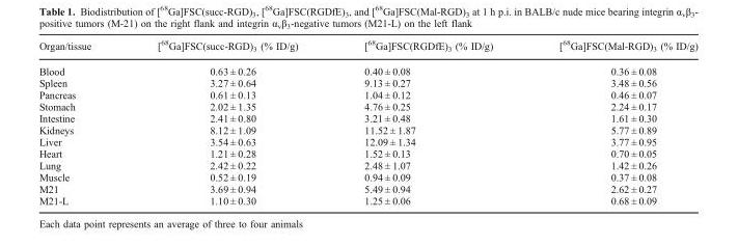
<table><thead><tr><td>Organ/tissue</td><td>[<sup>68</sup>Ga]FSC(succ-RGD)<sub>3</sub> (% ID/g)</td><td>[<sup>68</sup>Ga]FSC(RGDfE)<sub>3</sub> (% ID/g)</td><td>[<sup>68</sup>Ga]FSC(Mal-RGD)<sub>3</sub> (% ID/g)</td></tr></thead><tbody><tr><td>Blood</td><td>0.63 ± 0.26</td><td>0.40 ± 0.08</td><td>0.36 ± 0.08</td></tr><tr><td>Spleen</td><td>3.27 ± 0.64</td><td>9.13 ± 0.27</td><td>3.48 ± 0.56</td></tr><tr><td>Pancreas</td><td>0.61 ± 0.13</td><td>1.04 ± 0.12</td><td>0.46 ± 0.07</td></tr><tr><td>Stomach</td><td>2.02 ± 1.35</td><td>4.76 ± 0.25</td><td>2.24 ± 0.17</td></tr><tr><td>Intestine</td><td>2.41 ± 0.80</td><td>3.21 ± 0.48</td><td>1.61 ± 0.30</td></tr><tr><td>Kidneys</td><td>8.12 ± 1.09</td><td>11.52 ± 1.87</td><td>5.77 ± 0.89</td></tr><tr><td>Liver</td><td>3.54 ± 0.63</td><td>12.09 ± 1.34</td><td>3.77 ± 0.95</td></tr><tr><td>Heart</td><td>1.21 ± 0.28</td><td>1.52 ± 0.13</td><td>0.70 ± 0.05</td></tr><tr><td>Lung</td><td>2.42 ± 0.22</td><td>2.48 ± 1.07</td><td>1.42 ± 0.26</td></tr><tr><td>Muscle</td><td>0.52 ± 0.19</td><td>0.94 ± 0.09</td><td>0.37 ± 0.08</td></tr><tr><td>M21</td><td>3.69 ± 0.94</td><td>5.49 ± 0.94</td><td>2.62 ± 0.27</td></tr><tr><td>M21-L</td><td>1.10 ± 0.30</td><td>1.25 ± 0.06</td><td>0.68 ± 0.09</td></tr></tbody></table>